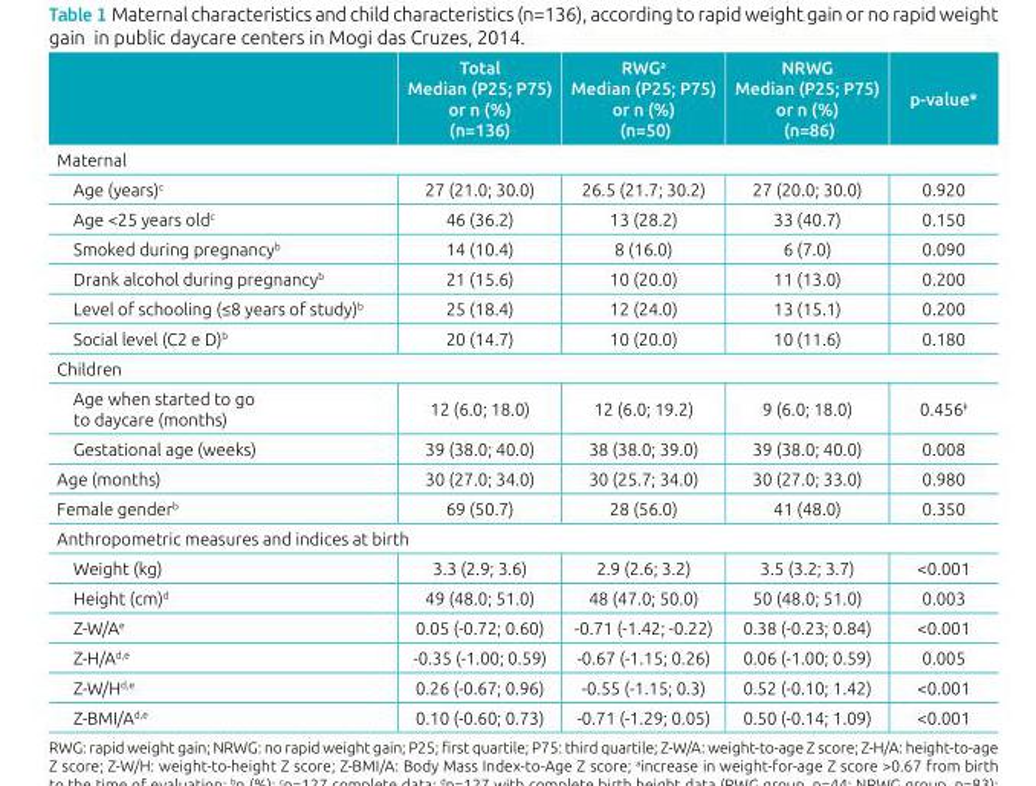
<table><thead><tr><td></td><td>Total Median (P25; P75) or n (%) (n=136)</td><td>RWG<sup>a</sup> Median (P25; P75) or n (%) (n=50)</td><td>NRWG Median (P25; P75) or n (%) (n=86)</td><td>p‑value*</td></tr></thead><tbody><tr><td colspan="5">Maternal</td></tr><tr><td>Age (years)<sup>c</sup></td><td>27 (21.0; 30.0)</td><td>26.5 (21.7; 30.2)</td><td>27 (20.0; 30.0)</td><td>0.920</td></tr><tr><td>Age &lt;25 years old<sup>c</sup></td><td>46 (36.2)</td><td>13 (28.2)</td><td>33 (40.7)</td><td>0.150</td></tr><tr><td>Smoked during pregnancy<sup>b</sup></td><td>14 (10.4)</td><td>8 (16.0)</td><td>6 (7.0)</td><td>0.090</td></tr><tr><td>Drank alcohol during pregnancy<sup>b</sup></td><td>21 (15.6)</td><td>10 (20.0)</td><td>11 (13.0)</td><td>0.200</td></tr><tr><td>Level of schooling (≤8 years of study)<sup>b</sup></td><td>25 (18.4)</td><td>12 (24.0)</td><td>13 (15.1)</td><td>0.200</td></tr><tr><td>Social level (C2 e D)<sup>b</sup></td><td>20 (14.7)</td><td>10 (20.0)</td><td>10 (11.6)</td><td>0.180</td></tr><tr><td colspan="5">Children</td></tr><tr><td>Age when started to go to daycare (months)</td><td>12 (6.0; 18.0)</td><td>12 (6.0; 19.2)</td><td>9 (6.0; 18.0)</td><td>0.456<sup>‡</sup></td></tr><tr><td>Gestational age (weeks)</td><td>39 (38.0; 40.0)</td><td>38 (38.0; 39.0)</td><td>39 (38.0; 40.0)</td><td>0.008</td></tr><tr><td>Age (months)</td><td>30 (27.0; 34.0)</td><td>30 (25.7; 34.0)</td><td>30 (27.0; 33.0)</td><td>0.980</td></tr><tr><td>Female gender<sup>b</sup></td><td>69 (50.7)</td><td>28 (56.0)</td><td>41 (48.0)</td><td>0.350</td></tr><tr><td colspan="5">Anthropometric measures and indices at birth</td></tr><tr><td>Weight (kg)</td><td>3.3 (2.9; 3.6)</td><td>2.9 (2.6; 3.2)</td><td>3.5 (3.2; 3.7)</td><td>&lt;0.001</td></tr><tr><td>Height (cm)<sup>d</sup></td><td>49 (48.0; 51.0)</td><td>48 (47.0; 50.0)</td><td>50 (48.0; 51.0)</td><td>0.003</td></tr><tr><td>Z‑W/A<sup>e</sup></td><td>0.05 (‑0.72; 0.60)</td><td>‑0.71 (‑1.42; ‑0.22)</td><td>0.38 (‑0.23; 0.84)</td><td>&lt;0.001</td></tr><tr><td>Z‑H/A<sup>d,e</sup></td><td>‑0.35 (‑1.00; 0.59)</td><td>‑0.67 (‑1.15; 0.26)</td><td>0.06 (‑1.00; 0.59)</td><td>0.005</td></tr><tr><td>Z‑W/H<sup>d,e</sup></td><td>0.26 (‑0.67; 0.96)</td><td>‑0.55 (‑1.15; 0.3)</td><td>0.52 (‑0.10; 1.42)</td><td>&lt;0.001</td></tr><tr><td>Z‑BMI/A<sup>d,e</sup></td><td>0.10 (‑0.60; 0.73)</td><td>‑0.71 (‑1.29; 0.05)</td><td>0.50 (‑0.14; 1.09)</td><td>&lt;0.001</td></tr></tbody></table>